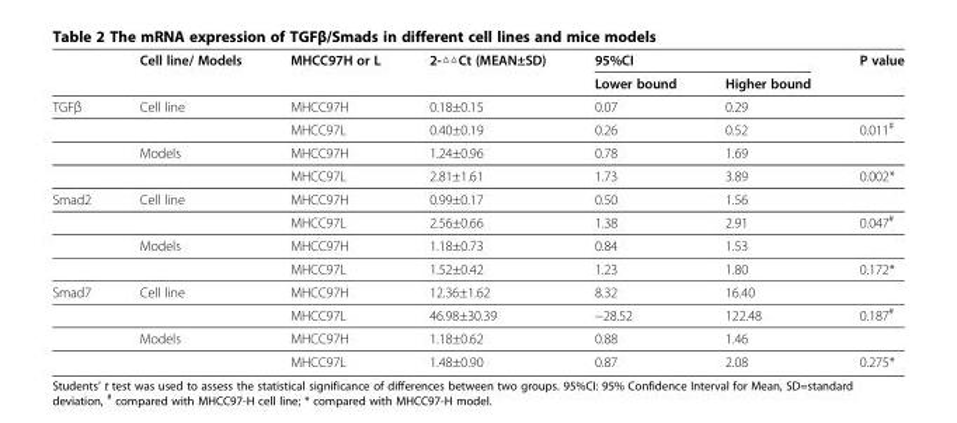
<table><thead><tr><td rowspan="2"></td><td rowspan="2">Cell line/ Models</td><td rowspan="2">MHCC97H or L</td><td rowspan="2">2-△△Ct (MEAN±SD)</td><td colspan="2">95%CI</td><td rowspan="2">P value</td></tr><tr><td>Lower bound</td><td>Higher bound</td></tr></thead><tbody><tr><td rowspan="4">TGFβ</td><td>Cell line</td><td>MHCC97H</td><td>0.18±0.15</td><td>0.07</td><td>0.29</td><td></td></tr><tr><td></td><td>MHCC97L</td><td>0.40±0.19</td><td>0.26</td><td>0.52</td><td>0.011<sup>#</sup></td></tr><tr><td>Models</td><td>MHCC97H</td><td>1.24±0.96</td><td>0.78</td><td>1.69</td><td></td></tr><tr><td></td><td>MHCC97L</td><td>2.81±1.61</td><td>1.73</td><td>3.89</td><td>0.002*</td></tr><tr><td rowspan="4">Smad2</td><td>Cell line</td><td>MHCC97H</td><td>0.99±0.17</td><td>0.50</td><td>1.56</td><td></td></tr><tr><td></td><td>MHCC97L</td><td>2.56±0.66</td><td>1.38</td><td>2.91</td><td>0.047<sup>#</sup></td></tr><tr><td>Models</td><td>MHCC97H</td><td>1.18±0.73</td><td>0.84</td><td>1.53</td><td></td></tr><tr><td></td><td>MHCC97L</td><td>1.52±0.42</td><td>1.23</td><td>1.80</td><td>0.172*</td></tr><tr><td rowspan="4">Smad7</td><td>Cell line</td><td>MHCC97H</td><td>12.36±1.62</td><td>8.32</td><td>16.40</td><td></td></tr><tr><td></td><td>MHCC97L</td><td>46.98±30.39</td><td>−28.52</td><td>122.48</td><td>0.187<sup>#</sup></td></tr><tr><td>Models</td><td>MHCC97H</td><td>1.18±0.62</td><td>0.88</td><td>1.46</td><td></td></tr><tr><td></td><td>MHCC97L</td><td>1.48±0.90</td><td>0.87</td><td>2.08</td><td>0.275*</td></tr></tbody></table>